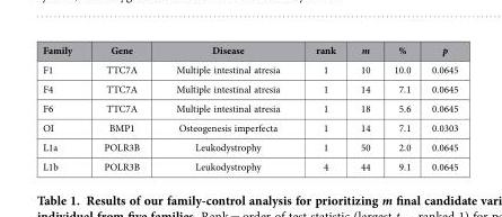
<table><thead><tr><td>Family</td><td>Gene</td><td>Disease</td><td>rank</td><td>m</td><td>%</td><td>p</td></tr></thead><tbody><tr><td>F1</td><td>TTC7A</td><td>Multiple intestinal atresia</td><td>1</td><td>10</td><td>10.0</td><td>0.0645</td></tr><tr><td>F4</td><td>TTC7A</td><td>Multiple intestinal atresia</td><td>1</td><td>14</td><td>7.1</td><td>0.0645</td></tr><tr><td>F6</td><td>TTC7A</td><td>Multiple intestinal atresia</td><td>1</td><td>18</td><td>5.6</td><td>0.0645</td></tr><tr><td>OI</td><td>BMP1</td><td>Osteogenesis imperfecta</td><td>1</td><td>14</td><td>7.1</td><td>0.0303</td></tr><tr><td>L1a</td><td>POLR3B</td><td>Leukodystrophy</td><td>1</td><td>50</td><td>2.0</td><td>0.0645</td></tr><tr><td>L1b</td><td>POLR3B</td><td>Leukodystrophy</td><td>4</td><td>44</td><td>9.1</td><td>0.0645</td></tr></tbody></table>